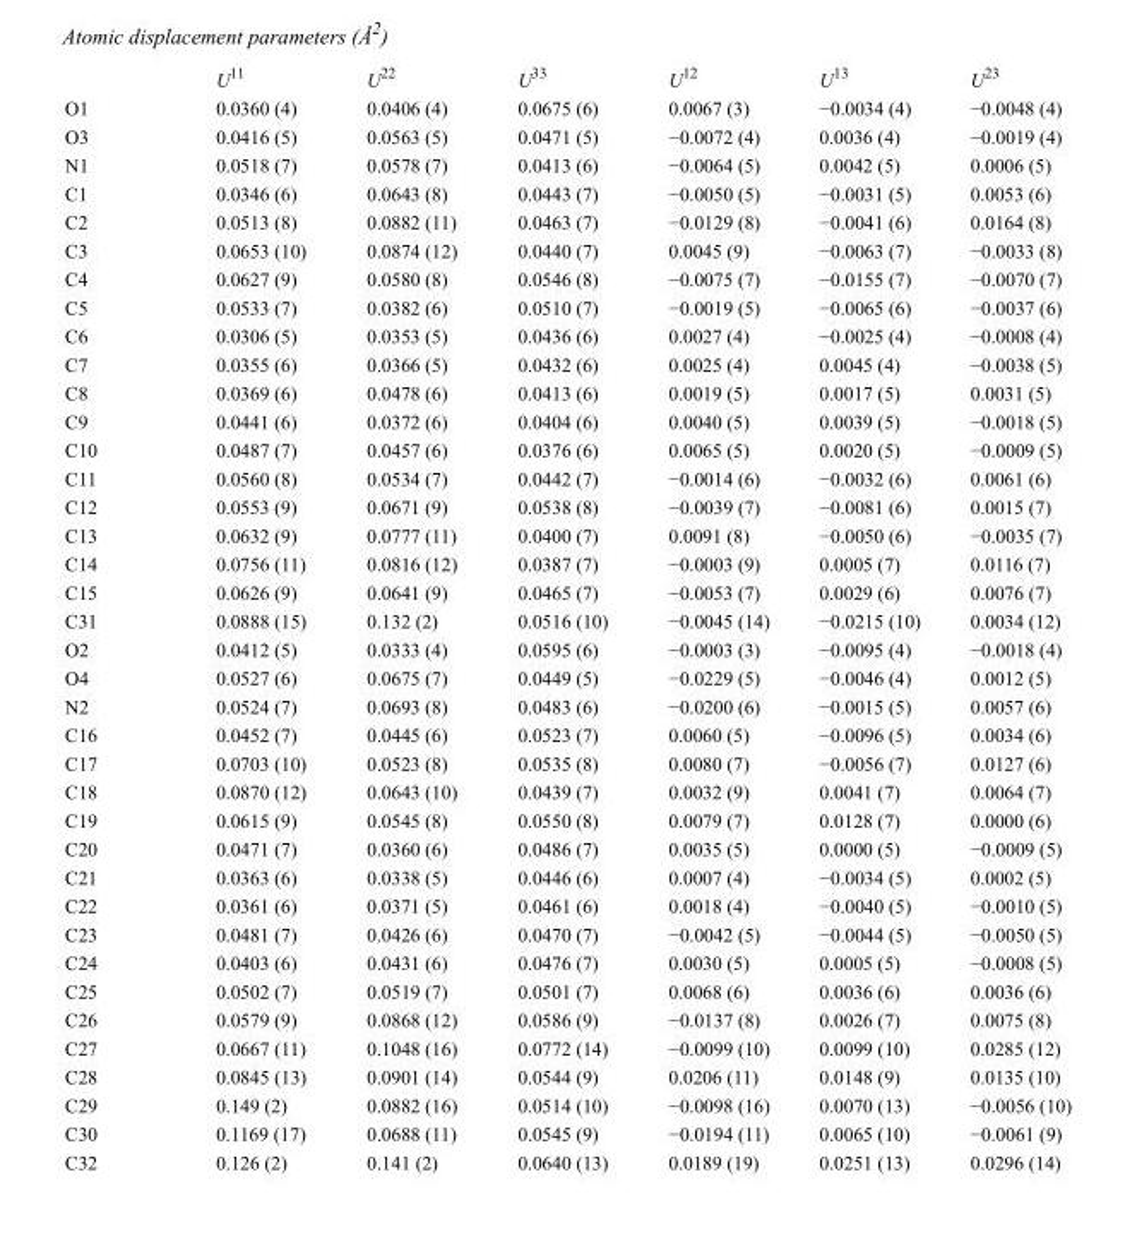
<table><thead><tr><td></td><td>U<sup>11</sup></td><td>U<sup>22</sup></td><td>U<sup>33</sup></td><td>U<sup>12</sup></td><td>U<sup>13</sup></td><td>U<sup>23</sup></td></tr></thead><tbody><tr><td>O1</td><td>0.0360 (4)</td><td>0.0406 (4)</td><td>0.0675 (6)</td><td>0.0067 (3)</td><td>−0.0034 (4)</td><td>−0.0048 (4)</td></tr><tr><td>O3</td><td>0.0416 (5)</td><td>0.0563 (5)</td><td>0.0471 (5)</td><td>−0.0072 (4)</td><td>0.0036 (4)</td><td>−0.0019 (4)</td></tr><tr><td>N1</td><td>0.0518 (7)</td><td>0.0578 (7)</td><td>0.0413 (6)</td><td>−0.0064 (5)</td><td>0.0042 (5)</td><td>0.0006 (5)</td></tr><tr><td>C1</td><td>0.0346 (6)</td><td>0.0643 (8)</td><td>0.0443 (7)</td><td>−0.0050 (5)</td><td>−0.0031 (5)</td><td>0.0053 (6)</td></tr><tr><td>C2</td><td>0.0513 (8)</td><td>0.0882 (11)</td><td>0.0463 (7)</td><td>−0.0129 (8)</td><td>−0.0041 (6)</td><td>0.0164 (8)</td></tr><tr><td>C3</td><td>0.0653 (10)</td><td>0.0874 (12)</td><td>0.0440 (7)</td><td>0.0045 (9)</td><td>−0.0063 (7)</td><td>−0.0033 (8)</td></tr><tr><td>C4</td><td>0.0627 (9)</td><td>0.0580 (8)</td><td>0.0546 (8)</td><td>−0.0075 (7)</td><td>−0.0155 (7)</td><td>−0.0070 (7)</td></tr><tr><td>C5</td><td>0.0533 (7)</td><td>0.0382 (6)</td><td>0.0510 (7)</td><td>−0.0019 (5)</td><td>−0.0065 (6)</td><td>−0.0037 (6)</td></tr><tr><td>C6</td><td>0.0306 (5)</td><td>0.0353 (5)</td><td>0.0436 (6)</td><td>0.0027 (4)</td><td>−0.0025 (4)</td><td>−0.0008 (4)</td></tr><tr><td>C7</td><td>0.0355 (6)</td><td>0.0366 (5)</td><td>0.0432 (6)</td><td>0.0025 (4)</td><td>0.0045 (4)</td><td>−0.0038 (5)</td></tr><tr><td>C8</td><td>0.0369 (6)</td><td>0.0478 (6)</td><td>0.0413 (6)</td><td>0.0019 (5)</td><td>0.0017 (5)</td><td>0.0031 (5)</td></tr><tr><td>C9</td><td>0.0441 (6)</td><td>0.0372 (6)</td><td>0.0404 (6)</td><td>0.0040 (5)</td><td>0.0039 (5)</td><td>−0.0018 (5)</td></tr><tr><td>C10</td><td>0.0487 (7)</td><td>0.0457 (6)</td><td>0.0376 (6)</td><td>0.0065 (5)</td><td>0.0020 (5)</td><td>−0.0009 (5)</td></tr><tr><td>C11</td><td>0.0560 (8)</td><td>0.0534 (7)</td><td>0.0442 (7)</td><td>−0.0014 (6)</td><td>−0.0032 (6)</td><td>0.0061 (6)</td></tr><tr><td>C12</td><td>0.0553 (9)</td><td>0.0671 (9)</td><td>0.0538 (8)</td><td>−0.0039 (7)</td><td>−0.0081 (6)</td><td>0.0015 (7)</td></tr><tr><td>C13</td><td>0.0632 (9)</td><td>0.0777 (11)</td><td>0.0400 (7)</td><td>0.0091 (8)</td><td>−0.0050 (6)</td><td>−0.0035 (7)</td></tr><tr><td>C14</td><td>0.0756 (11)</td><td>0.0816 (12)</td><td>0.0387 (7)</td><td>−0.0003 (9)</td><td>0.0005 (7)</td><td>0.0116 (7)</td></tr><tr><td>C15</td><td>0.0626 (9)</td><td>0.0641 (9)</td><td>0.0465 (7)</td><td>−0.0053 (7)</td><td>0.0029 (6)</td><td>0.0076 (7)</td></tr><tr><td>C31</td><td>0.0888 (15)</td><td>0.132 (2)</td><td>0.0516 (10)</td><td>−0.0045 (14)</td><td>−0.0215 (10)</td><td>0.0034 (12)</td></tr><tr><td>O2</td><td>0.0412 (5)</td><td>0.0333 (4)</td><td>0.0595 (6)</td><td>−0.0003 (3)</td><td>−0.0095 (4)</td><td>−0.0018 (4)</td></tr><tr><td>O4</td><td>0.0527 (6)</td><td>0.0675 (7)</td><td>0.0449 (5)</td><td>−0.0229 (5)</td><td>−0.0046 (4)</td><td>0.0012 (5)</td></tr><tr><td>N2</td><td>0.0524 (7)</td><td>0.0693 (8)</td><td>0.0483 (6)</td><td>−0.0200 (6)</td><td>−0.0015 (5)</td><td>0.0057 (6)</td></tr><tr><td>C16</td><td>0.0452 (7)</td><td>0.0445 (6)</td><td>0.0523 (7)</td><td>0.0060 (5)</td><td>−0.0096 (5)</td><td>0.0034 (6)</td></tr><tr><td>C17</td><td>0.0703 (10)</td><td>0.0523 (8)</td><td>0.0535 (8)</td><td>0.0080 (7)</td><td>−0.0056 (7)</td><td>0.0127 (6)</td></tr><tr><td>C18</td><td>0.0870 (12)</td><td>0.0643 (10)</td><td>0.0439 (7)</td><td>0.0032 (9)</td><td>0.0041 (7)</td><td>0.0064 (7)</td></tr><tr><td>C19</td><td>0.0615 (9)</td><td>0.0545 (8)</td><td>0.0550 (8)</td><td>0.0079 (7)</td><td>0.0128 (7)</td><td>0.0000 (6)</td></tr><tr><td>C20</td><td>0.0471 (7)</td><td>0.0360 (6)</td><td>0.0486 (7)</td><td>0.0035 (5)</td><td>0.0000 (5)</td><td>−0.0009 (5)</td></tr><tr><td>C21</td><td>0.0363 (6)</td><td>0.0338 (5)</td><td>0.0446 (6)</td><td>0.0007 (4)</td><td>−0.0034 (5)</td><td>0.0002 (5)</td></tr><tr><td>C22</td><td>0.0361 (6)</td><td>0.0371 (5)</td><td>0.0461 (6)</td><td>0.0018 (4)</td><td>−0.0040 (5)</td><td>−0.0010 (5)</td></tr><tr><td>C23</td><td>0.0481 (7)</td><td>0.0426 (6)</td><td>0.0470 (7)</td><td>−0.0042 (5)</td><td>−0.0044 (5)</td><td>−0.0050 (5)</td></tr><tr><td>C24</td><td>0.0403 (6)</td><td>0.0431 (6)</td><td>0.0476 (7)</td><td>0.0030 (5)</td><td>0.0005 (5)</td><td>−0.0008 (5)</td></tr><tr><td>C25</td><td>0.0502 (7)</td><td>0.0519 (7)</td><td>0.0501 (7)</td><td>0.0068 (6)</td><td>0.0036 (6)</td><td>0.0036 (6)</td></tr><tr><td>C26</td><td>0.0579 (9)</td><td>0.0868 (12)</td><td>0.0586 (9)</td><td>−0.0137 (8)</td><td>0.0026 (7)</td><td>0.0075 (8)</td></tr><tr><td>C27</td><td>0.0667 (11)</td><td>0.1048 (16)</td><td>0.0772 (14)</td><td>−0.0099 (10)</td><td>0.0099 (10)</td><td>0.0285 (12)</td></tr><tr><td>C28</td><td>0.0845 (13)</td><td>0.0901 (14)</td><td>0.0544 (9)</td><td>0.0206 (11)</td><td>0.0148 (9)</td><td>0.0135 (10)</td></tr><tr><td>C29</td><td>0.149 (2)</td><td>0.0882 (16)</td><td>0.0514 (10)</td><td>−0.0098 (16)</td><td>0.0070 (13)</td><td>−0.0056 (10)</td></tr><tr><td>C30</td><td>0.1169 (17)</td><td>0.0688 (11)</td><td>0.0545 (9)</td><td>−0.0194 (11)</td><td>0.0065 (10)</td><td>−0.0061 (9)</td></tr><tr><td>C32</td><td>0.126 (2)</td><td>0.141 (2)</td><td>0.0640 (13)</td><td>0.0189 (19)</td><td>0.0251 (13)</td><td>0.0296 (14)</td></tr></tbody></table>